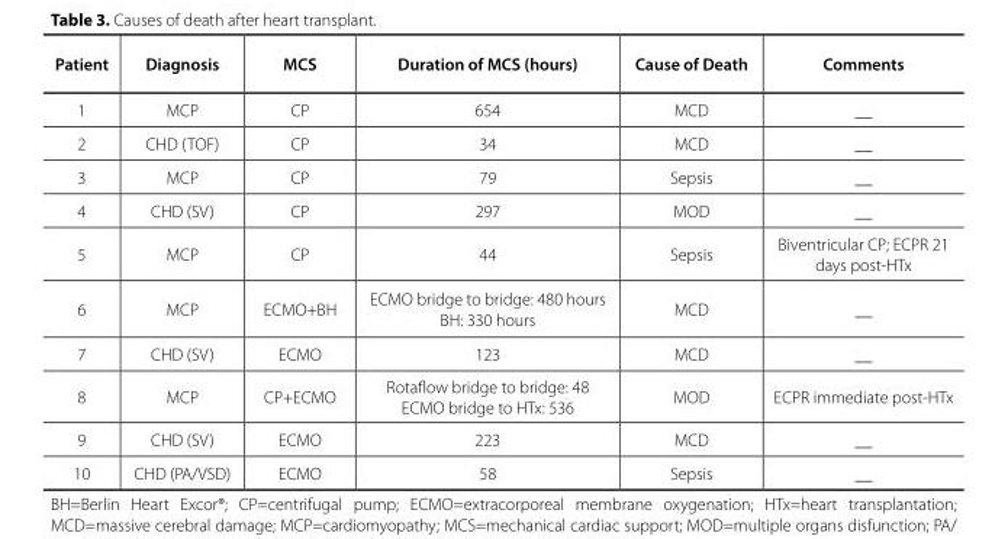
<table><thead><tr><td>Patient</td><td>Diagnosis</td><td>MCS</td><td>Duration of MCS (hours)</td><td>Cause of Death</td><td>Comments</td></tr></thead><tbody><tr><td>1</td><td>MCP</td><td>CP</td><td>654</td><td>MCD</td><td>__</td></tr><tr><td>2</td><td>CHD (TOF)</td><td>CP</td><td>34</td><td>MCD</td><td>__</td></tr><tr><td>3</td><td>MCP</td><td>CP</td><td>79</td><td>Sepsis</td><td>__</td></tr><tr><td>4</td><td>CHD (SV)</td><td>CP</td><td>297</td><td>MOD</td><td>__</td></tr><tr><td>5</td><td>MCP</td><td>CP</td><td>44</td><td>Sepsis</td><td>Biventricular CP; ECPR 21 days post-HTx</td></tr><tr><td>6</td><td>MCP</td><td>ECMO+BH</td><td>ECMO bridge to bridge: 480 hours BH: 330 hours</td><td>MCD</td><td>__</td></tr><tr><td>7</td><td>CHD (SV)</td><td>ECMO</td><td>123</td><td>MCD</td><td>__</td></tr><tr><td>8</td><td>MCP</td><td>CP+ECMO</td><td>Rotaflow bridge to bridge: 48 ECMO bridge to HTx: 536</td><td>MOD</td><td>ECPR immediate post-HTx</td></tr><tr><td>9</td><td>CHD (SV)</td><td>ECMO</td><td>223</td><td>MCD</td><td>__</td></tr><tr><td>10</td><td>CHD (PA/VSD)</td><td>ECMO</td><td>58</td><td>Sepsis</td><td>__</td></tr></tbody></table>